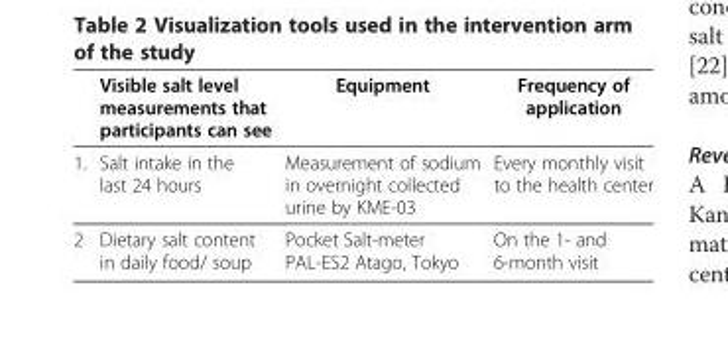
<table><thead><tr><td>Visible salt level measurements that participants can see</td><td>Equipment</td><td>Frequency of application</td></tr></thead><tbody><tr><td>1. Salt intake in the last 24 hours</td><td>Measurement of sodium in overnight collected urine by KME-03</td><td>Every monthly visit to the health center</td></tr><tr><td>2 Dietary salt content in daily food/ soup</td><td>Pocket Salt-meter PAL-ES2 Atago, Tokyo</td><td>On the 1- and 6-month visit</td></tr></tbody></table>